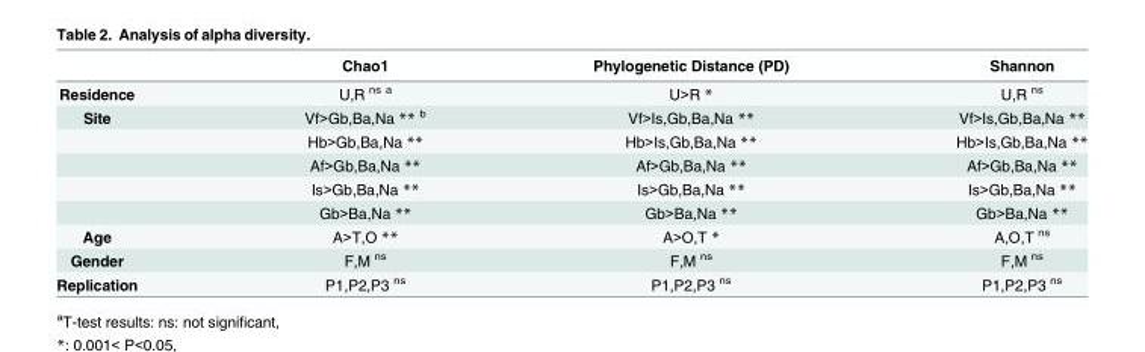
<table><thead><tr><td></td><td>Chao1</td><td>Phylogenetic Distance (PD)</td><td>Shannon</td></tr></thead><tbody><tr><td>Residence</td><td>U,R <sup>ns a</sup></td><td>U&gt;R *</td><td>U,R <sup>ns</sup></td></tr><tr><td rowspan="5">Site</td><td>Vf&gt;Gb,Ba,Na ** <sup>b</sup></td><td>Vf&gt;Is,Gb,Ba,Na **</td><td>Vf&gt;Is,Gb,Ba,Na **</td></tr><tr><td>Hb&gt;Gb,Ba,Na **</td><td>Hb&gt;Is,Gb,Ba,Na **</td><td>Hb&gt;Is,Gb,Ba,Na **</td></tr><tr><td>Af&gt;Gb,Ba,Na **</td><td>Af&gt;Gb,Ba,Na **</td><td>Af&gt;Gb,Ba,Na **</td></tr><tr><td>Is&gt;Gb,Ba,Na **</td><td>Is&gt;Gb,Ba,Na **</td><td>Is&gt;Gb,Ba,Na **</td></tr><tr><td>Gb&gt;Ba,Na **</td><td>Gb&gt;Ba,Na **</td><td>Gb&gt;Ba,Na **</td></tr><tr><td>Age</td><td>A&gt;T,O **</td><td>A&gt;O,T *</td><td>A,O,T <sup>ns</sup></td></tr><tr><td>Gender</td><td>F,M <sup>ns</sup></td><td>F,M <sup>ns</sup></td><td>F,M <sup>ns</sup></td></tr><tr><td>Replication</td><td>P1,P2,P3 <sup>ns</sup></td><td>P1,P2,P3 <sup>ns</sup></td><td>P1,P2,P3 <sup>ns</sup></td></tr></tbody></table>